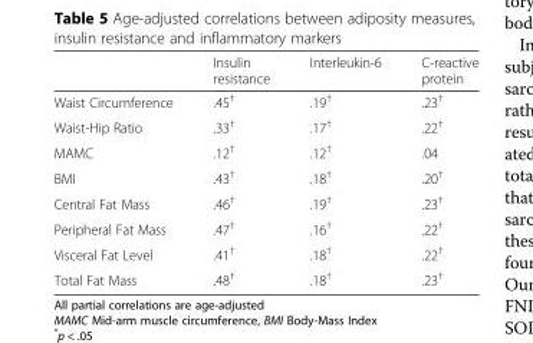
<table><thead><tr><td></td><td>Insulin resistance</td><td>Interleukin-6</td><td>C-reactive protein</td></tr></thead><tbody><tr><td>Waist Circumference</td><td>.45<sup>†</sup></td><td>.19<sup>†</sup></td><td>.23<sup>†</sup></td></tr><tr><td>Waist-Hip Ratio</td><td>.33<sup>†</sup></td><td>.17<sup>†</sup></td><td>.22<sup>†</sup></td></tr><tr><td>MAMC</td><td>.12<sup>†</sup></td><td>.12<sup>†</sup></td><td>.04</td></tr><tr><td>BMI</td><td>.43<sup>†</sup></td><td>.18<sup>†</sup></td><td>.20<sup>†</sup></td></tr><tr><td>Central Fat Mass</td><td>.46<sup>†</sup></td><td>.19<sup>†</sup></td><td>.23<sup>†</sup></td></tr><tr><td>Peripheral Fat Mass</td><td>.47<sup>†</sup></td><td>.16<sup>†</sup></td><td>.22<sup>†</sup></td></tr><tr><td>Visceral Fat Level</td><td>.41<sup>†</sup></td><td>.18<sup>†</sup></td><td>.22<sup>†</sup></td></tr><tr><td>Total Fat Mass</td><td>.48<sup>†</sup></td><td>.18<sup>†</sup></td><td>.23<sup>†</sup></td></tr></tbody></table>